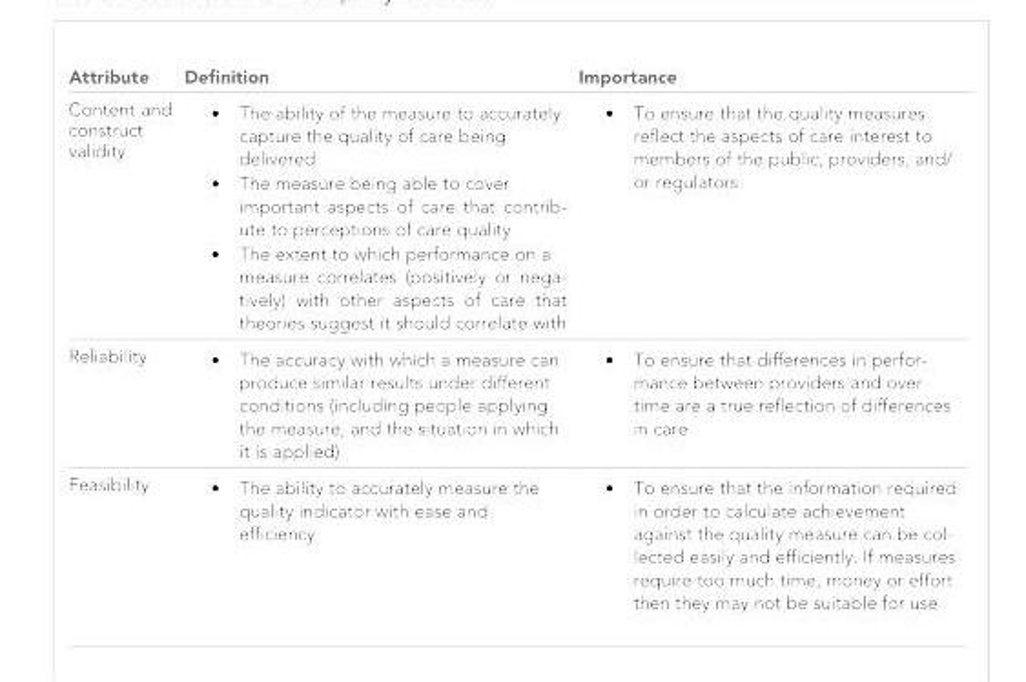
<table><thead><tr><td>Attribute</td><td>Definition</td><td>Importance</td></tr></thead><tbody><tr><td>Content and construct validity</td><td>. The ability of the measure to accurately capture the quality of care being delivered . The measure being able to cover important aspects of care that contrib- ute to perceptions of care quality . The extent to which performance on a measure correlates (positively or nega- tively) with other aspects of care that theories suggest it should correlate with</td><td>. To ensure that the quality measures reflect the aspects of care interest to members of the public, providers, and/ or regulators</td></tr><tr><td>Reliability</td><td>. The accuracy with which a measure can produce similar results under different conditions (including people applying the measure, and the situation in which it is applied)</td><td>. To ensure that differences in perfor- mance between providers and over time are a true reflection of differences in care</td></tr><tr><td>Feasibility</td><td>. The ability to accurately measure the quality indicator with ease and efficiency</td><td>. To ensure that the information required in order to calculate achievement against the quality measure can be col- lected easily and efficiently. If measures require too much time, money or effort then they may not be suitable for use</td></tr></tbody></table>